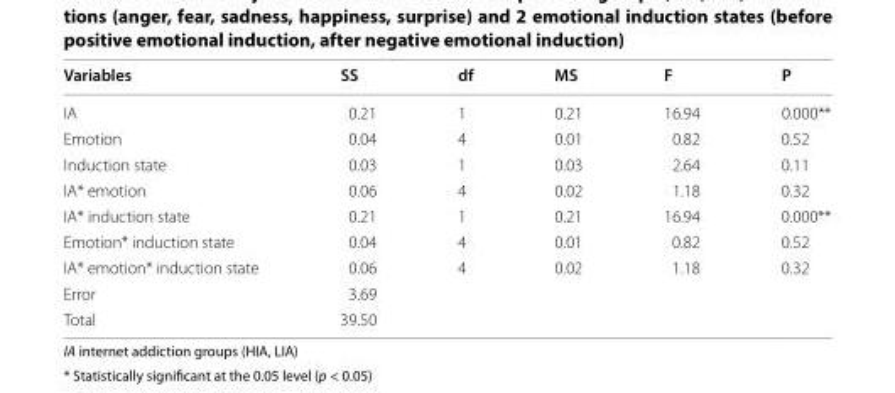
<table><thead><tr><td>Variables</td><td>SS</td><td>df</td><td>MS</td><td>F</td><td>P</td></tr></thead><tbody><tr><td>IA</td><td>0.21</td><td>1</td><td>0.21</td><td>16.94</td><td>0.000**</td></tr><tr><td>Emotion</td><td>0.04</td><td>4</td><td>0.01</td><td>0.82</td><td>0.52</td></tr><tr><td>Induction state</td><td>0.03</td><td>1</td><td>0.03</td><td>2.64</td><td>0.11</td></tr><tr><td>IA* emotion</td><td>0.06</td><td>4</td><td>0.02</td><td>1.18</td><td>0.32</td></tr><tr><td>IA* induction state</td><td>0.21</td><td>1</td><td>0.21</td><td>16.94</td><td>0.000**</td></tr><tr><td>Emotion* induction state</td><td>0.04</td><td>4</td><td>0.01</td><td>0.82</td><td>0.52</td></tr><tr><td>IA* emotion* induction state</td><td>0.06</td><td>4</td><td>0.02</td><td>1.18</td><td>0.32</td></tr><tr><td>Error</td><td>3.69</td><td colspan="4"></td></tr><tr><td>Total</td><td>39.50</td><td colspan="4"></td></tr></tbody></table>